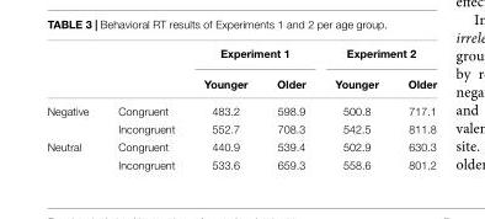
<table><thead><tr><td rowspan="2"></td><td rowspan="2"></td><td colspan="2">Experiment 1</td><td colspan="2">Experiment 2</td></tr><tr><td>Younger</td><td>Older</td><td>Younger</td><td>Older</td></tr></thead><tbody><tr><td rowspan="2">Negative</td><td>Congruent</td><td>483.2</td><td>598.9</td><td>500.8</td><td>717.1</td></tr><tr><td>Incongruent</td><td>552.7</td><td>708.3</td><td>542.5</td><td>811.8</td></tr><tr><td rowspan="2">Neutral</td><td>Congruent</td><td>440.9</td><td>539.4</td><td>502.9</td><td>630.3</td></tr><tr><td>Incongruent</td><td>533.6</td><td>659.3</td><td>558.6</td><td>801.2</td></tr></tbody></table>